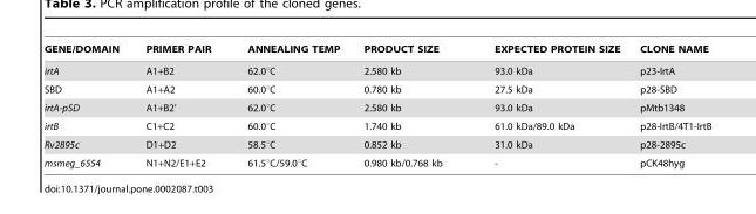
<table><thead><tr><td>GENE/DOMAIN</td><td>PRIMER PAIR</td><td>ANNEALING TEMP</td><td>PRODUCT SIZE</td><td>EXPECTED PROTEIN SIZE</td><td>CLONE NAME</td></tr></thead><tbody><tr><td>irtA</td><td>A1+B2</td><td>62.0°C</td><td>2.580 kb</td><td>93.0 kDa</td><td>p23-IrtA</td></tr><tr><td>SBD</td><td>A1+A2</td><td>60.0°C</td><td>0.780 kb</td><td>27.5 kDa</td><td>p28-SBD</td></tr><tr><td>irtA-pSD</td><td>A1+B2’</td><td>62.0°C</td><td>2.580 kb</td><td>93.0 kDa</td><td>pMtb1348</td></tr><tr><td>irtB</td><td>C1+C2</td><td>60.0°C</td><td>1.740 kb</td><td>61.0 kDa/89.0 kDa</td><td>p28-IrtB/4T1-IrtB</td></tr><tr><td>Rv2895c</td><td>D1+D2</td><td>58.5°C</td><td>0.852 kb</td><td>31.0 kDa</td><td>p28-2895c</td></tr><tr><td>msmeg_6554</td><td>N1+N2/E1+E2</td><td>61.5°C/59.0°C</td><td>0.980 kb/0.768 kb</td><td>-</td><td>pCK48hyg</td></tr></tbody></table>